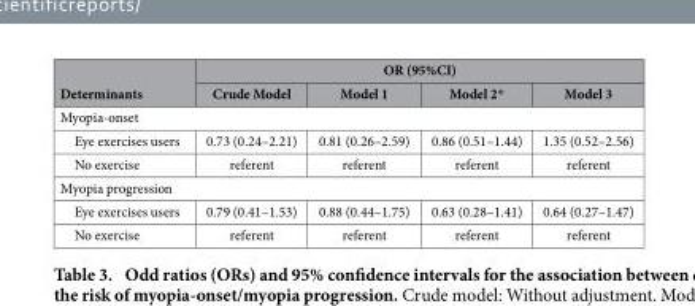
<table><thead><tr><td rowspan="2">Determinants</td><td colspan="4">OR (95%CI)</td></tr><tr><td>Crude Model</td><td>Model 1</td><td>Model 2*</td><td>Model 3</td></tr></thead><tbody><tr><td colspan="5">Myopia-onset</td></tr><tr><td>Eye exercises users</td><td>0.73 (0.24–2.21)</td><td>0.81 (0.26–2.59)</td><td>0.86 (0.51–1.44)</td><td>1.35 (0.52–2.56)</td></tr><tr><td>No exercise</td><td>referent</td><td>referent</td><td>referent</td><td>referent</td></tr><tr><td colspan="5">Myopia progression</td></tr><tr><td>Eye exercises users</td><td>0.79 (0.41–1.53)</td><td>0.88 (0.44–1.75)</td><td>0.63 (0.28–1.41)</td><td>0.64 (0.27–1.47)</td></tr><tr><td>No exercise</td><td>referent</td><td>referent</td><td>referent</td><td>referent</td></tr></tbody></table>